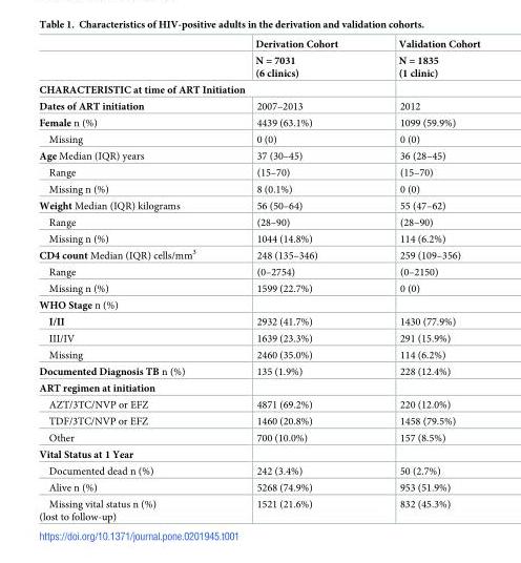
<table><thead><tr><td rowspan="2"></td><td rowspan="2">Derivation Cohort N = 7031 (6 clinics)</td><td rowspan="2">Validation Cohort N = 1835 (1 clinic)</td></tr><tr></tr></thead><tbody><tr><td colspan="3">CHARACTERISTIC at time of ART Initiation</td></tr><tr><td>Dates of ART initiation</td><td>2007–2013</td><td>2012</td></tr><tr><td>Female n (%)</td><td>4439 (63.1%)</td><td>1099 (59.9%)</td></tr><tr><td>Missing</td><td>0 (0)</td><td>0 (0)</td></tr><tr><td>Age Median (IQR) years</td><td>37 (30–45)</td><td>36 (28–45)</td></tr><tr><td>Range</td><td>(15–70)</td><td>(15–70)</td></tr><tr><td>Missing n (%)</td><td>8 (0.1%)</td><td>0 (0)</td></tr><tr><td>Weight Median (IQR) kilograms</td><td>56 (50–64)</td><td>55 (47–62)</td></tr><tr><td>Range</td><td>(28–90)</td><td>(28–90)</td></tr><tr><td>Missing n (%)</td><td>1044 (14.8%)</td><td>114 (6.2%)</td></tr><tr><td>CD4 count Median (IQR) cells/mm<sup>3</sup></td><td>248 (135–346)</td><td>259 (109–356)</td></tr><tr><td>Range</td><td>(0–2754)</td><td>(0–2150)</td></tr><tr><td>Missing n (%)</td><td>1599 (22.7%)</td><td>0 (0)</td></tr><tr><td colspan="3">WHO Stage n (%)</td></tr><tr><td>I/II</td><td>2932 (41.7%)</td><td>1430 (77.9%)</td></tr><tr><td>III/IV</td><td>1639 (23.3%)</td><td>291 (15.9%)</td></tr><tr><td>Missing</td><td>2460 (35.0%)</td><td>114 (6.2%)</td></tr><tr><td>Documented Diagnosis TB n (%)</td><td>135 (1.9%)</td><td>228 (12.4%)</td></tr><tr><td colspan="3">ART regimen at initiation</td></tr><tr><td>AZT/3TC/NVP or EFZ</td><td>4871 (69.2%)</td><td>220 (12.0%)</td></tr><tr><td>TDF/3TC/NVP or EFZ</td><td>1460 (20.8%)</td><td>1458 (79.5%)</td></tr><tr><td>Other</td><td>700 (10.0%)</td><td>157 (8.5%)</td></tr><tr><td colspan="3">Vital Status at 1 Year</td></tr><tr><td>Documented dead n (%)</td><td>242 (3.4%)</td><td>50 (2.7%)</td></tr><tr><td>Alive n (%)</td><td>5268 (74.9%)</td><td>953 (51.9%)</td></tr><tr><td>Missing vital status n (%) (lost to follow-up)</td><td>1521 (21.6%)</td><td>832 (45.3%)</td></tr></tbody></table>